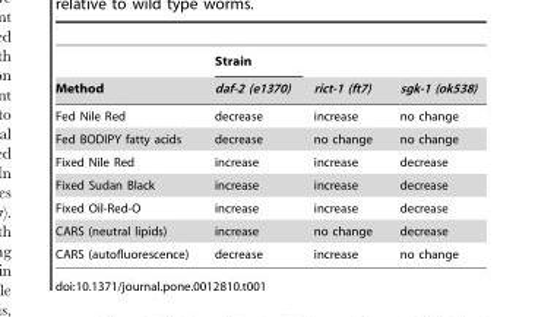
<table><thead><tr><td rowspan="2">Method</td><td rowspan="2">Strain daf-2 (e1370)</td><td rowspan="2">rict-1 (ft7)</td><td rowspan="2">sgk-1 (ok538)</td></tr><tr></tr></thead><tbody><tr><td>Fed Nile Red</td><td>decrease</td><td>increase</td><td>no change</td></tr><tr><td>Fed BODIPY fatty acids</td><td>decrease</td><td>no change</td><td>no change</td></tr><tr><td>Fixed Nile Red</td><td>increase</td><td>increase</td><td>decrease</td></tr><tr><td>Fixed Sudan Black</td><td>increase</td><td>increase</td><td>decrease</td></tr><tr><td>Fixed Oil-Red-O</td><td>increase</td><td>increase</td><td>decrease</td></tr><tr><td>CARS (neutral lipids)</td><td>increase</td><td>no change</td><td>decrease</td></tr><tr><td>CARS (autofluorescence)</td><td>decrease</td><td>increase</td><td>no change</td></tr></tbody></table>